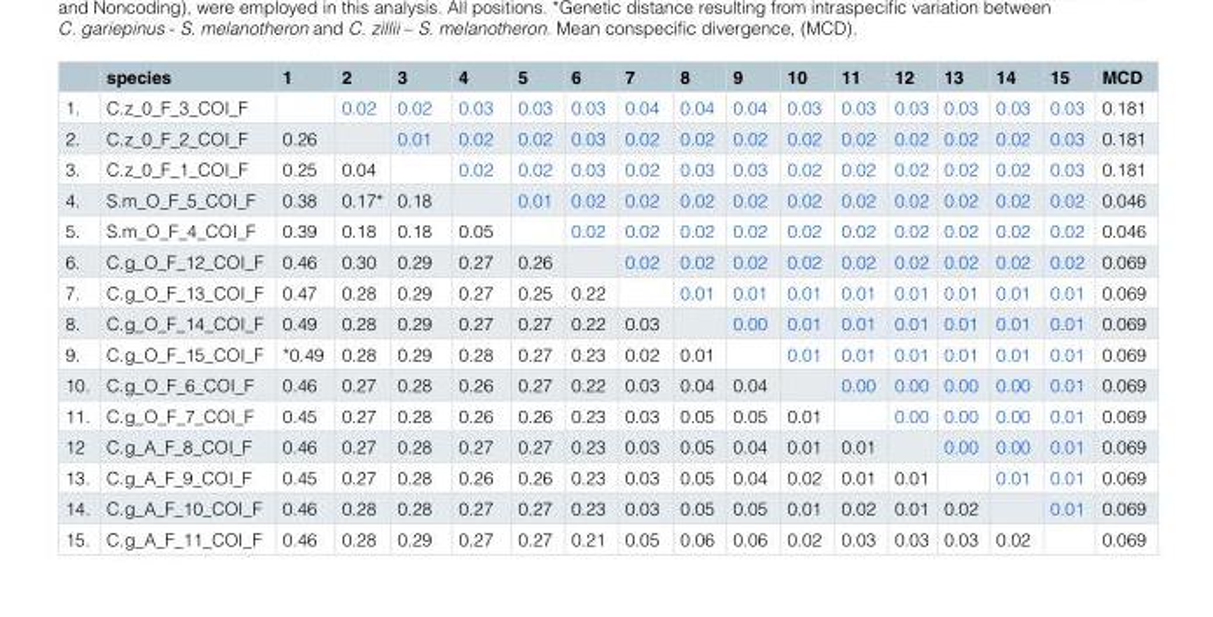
<table><thead><tr><td></td><td>species</td><td>1</td><td>2</td><td>3</td><td>4</td><td>5</td><td>6</td><td>7</td><td>8</td><td>9</td><td>10</td><td>11</td><td>12</td><td>13</td><td>14</td><td>15</td><td>MCD</td></tr></thead><tbody><tr><td>1.</td><td>C.z_0_F_3_COI_F</td><td></td><td>0.02</td><td>0.02</td><td>0.03</td><td>0.03</td><td>0.03</td><td>0.04</td><td>0.04</td><td>0.04</td><td>0.03</td><td>0.03</td><td>0.03</td><td>0.03</td><td>0.03</td><td>0.03</td><td>0.181</td></tr><tr><td>2.</td><td>C.z_0_F_2_COI_F</td><td>0.26</td><td></td><td>0.01</td><td>0.02</td><td>0.02</td><td>0.03</td><td>0.02</td><td>0.02</td><td>0.02</td><td>0.02</td><td>0.02</td><td>0.02</td><td>0.02</td><td>0.02</td><td>0.03</td><td>0.181</td></tr><tr><td>3.</td><td>C.z_0_F_1_COI_F</td><td>0.25</td><td>0.04</td><td></td><td>0.02</td><td>0.02</td><td>0.03</td><td>0.02</td><td>0.03</td><td>0.03</td><td>0.02</td><td>0.02</td><td>0.02</td><td>0.02</td><td>0.02</td><td>0.03</td><td>0.181</td></tr><tr><td>4.</td><td>S.m_O_F_5_COI_F</td><td>0.38</td><td>0.17*</td><td>0.18</td><td></td><td>0.01</td><td>0.02</td><td>0.02</td><td>0.02</td><td>0.02</td><td>0.02</td><td>0.02</td><td>0.02</td><td>0.02</td><td>0.02</td><td>0.02</td><td>0.046</td></tr><tr><td>5.</td><td>S.m_O_F_4_COI_F</td><td>0.39</td><td>0.18</td><td>0.18</td><td>0.05</td><td></td><td>0.02</td><td>0.02</td><td>0.02</td><td>0.02</td><td>0.02</td><td>0.02</td><td>0.02</td><td>0.02</td><td>0.02</td><td>0.02</td><td>0.046</td></tr><tr><td>6.</td><td>C.g_O_F_12_COI_F</td><td>0.46</td><td>0.30</td><td>0.29</td><td>0.27</td><td>0.26</td><td></td><td>0.02</td><td>0.02</td><td>0.02</td><td>0.02</td><td>0.02</td><td>0.02</td><td>0.02</td><td>0.02</td><td>0.02</td><td>0.069</td></tr><tr><td>7.</td><td>C.g_O_F_13_COI_F</td><td>0.47</td><td>0.28</td><td>0.29</td><td>0.27</td><td>0.25</td><td>0.22</td><td></td><td>0.01</td><td>0.01</td><td>0.01</td><td>0.01</td><td>0.01</td><td>0.01</td><td>0.01</td><td>0.01</td><td>0.069</td></tr><tr><td>8.</td><td>C.g_O_F_14_COI_F</td><td>0.49</td><td>0.28</td><td>0.29</td><td>0.27</td><td>0.27</td><td>0.22</td><td>0.03</td><td></td><td>0.00</td><td>0.01</td><td>0.01</td><td>0.01</td><td>0.01</td><td>0.01</td><td>0.01</td><td>0.069</td></tr><tr><td>9.</td><td>C.g_O_F_15_COI_F</td><td>*0.49</td><td>0.28</td><td>0.29</td><td>0.28</td><td>0.27</td><td>0.23</td><td>0.02</td><td>0.01</td><td></td><td>0.01</td><td>0.01</td><td>0.01</td><td>0.01</td><td>0.01</td><td>0.01</td><td>0.069</td></tr><tr><td>10.</td><td>C.g_O_F_6_COI_F</td><td>0.46</td><td>0.27</td><td>0.28</td><td>0.26</td><td>0.27</td><td>0.22</td><td>0.03</td><td>0.04</td><td>0.04</td><td></td><td>0.00</td><td>0.00</td><td>0.00</td><td>0.00</td><td>0.01</td><td>0.069</td></tr><tr><td>11.</td><td>C.g_O_F_7_COI_F</td><td>0.45</td><td>0.27</td><td>0.28</td><td>0.26</td><td>0.26</td><td>0.23</td><td>0.03</td><td>0.05</td><td>0.05</td><td>0.01</td><td></td><td>0.00</td><td>0.00</td><td>0.00</td><td>0.01</td><td>0.069</td></tr><tr><td>12</td><td>C.g_A_F_8_COI_F</td><td>0.46</td><td>0.27</td><td>0.28</td><td>0.27</td><td>0.27</td><td>0.23</td><td>0.03</td><td>0.05</td><td>0.04</td><td>0.01</td><td>0.01</td><td></td><td>0.00</td><td>0.00</td><td>0.01</td><td>0.069</td></tr><tr><td>13.</td><td>C.g_A_F_9_COI_F</td><td>0.45</td><td>0.27</td><td>0.28</td><td>0.26</td><td>0.26</td><td>0.23</td><td>0.03</td><td>0.05</td><td>0.04</td><td>0.02</td><td>0.01</td><td>0.01</td><td></td><td>0.01</td><td>0.01</td><td>0.069</td></tr><tr><td>14.</td><td>C.g_A_F_10_COI_F</td><td>0.46</td><td>0.28</td><td>0.28</td><td>0.27</td><td>0.27</td><td>0.23</td><td>0.03</td><td>0.05</td><td>0.05</td><td>0.01</td><td>0.02</td><td>0.01</td><td>0.02</td><td></td><td>0.01</td><td>0.069</td></tr><tr><td>15.</td><td>C.g_A_F_11_COI_F</td><td>0.46</td><td>0.28</td><td>0.29</td><td>0.27</td><td>0.27</td><td>0.21</td><td>0.05</td><td>0.06</td><td>0.06</td><td>0.02</td><td>0.03</td><td>0.03</td><td>0.03</td><td>0.02</td><td></td><td>0.069</td></tr></tbody></table>